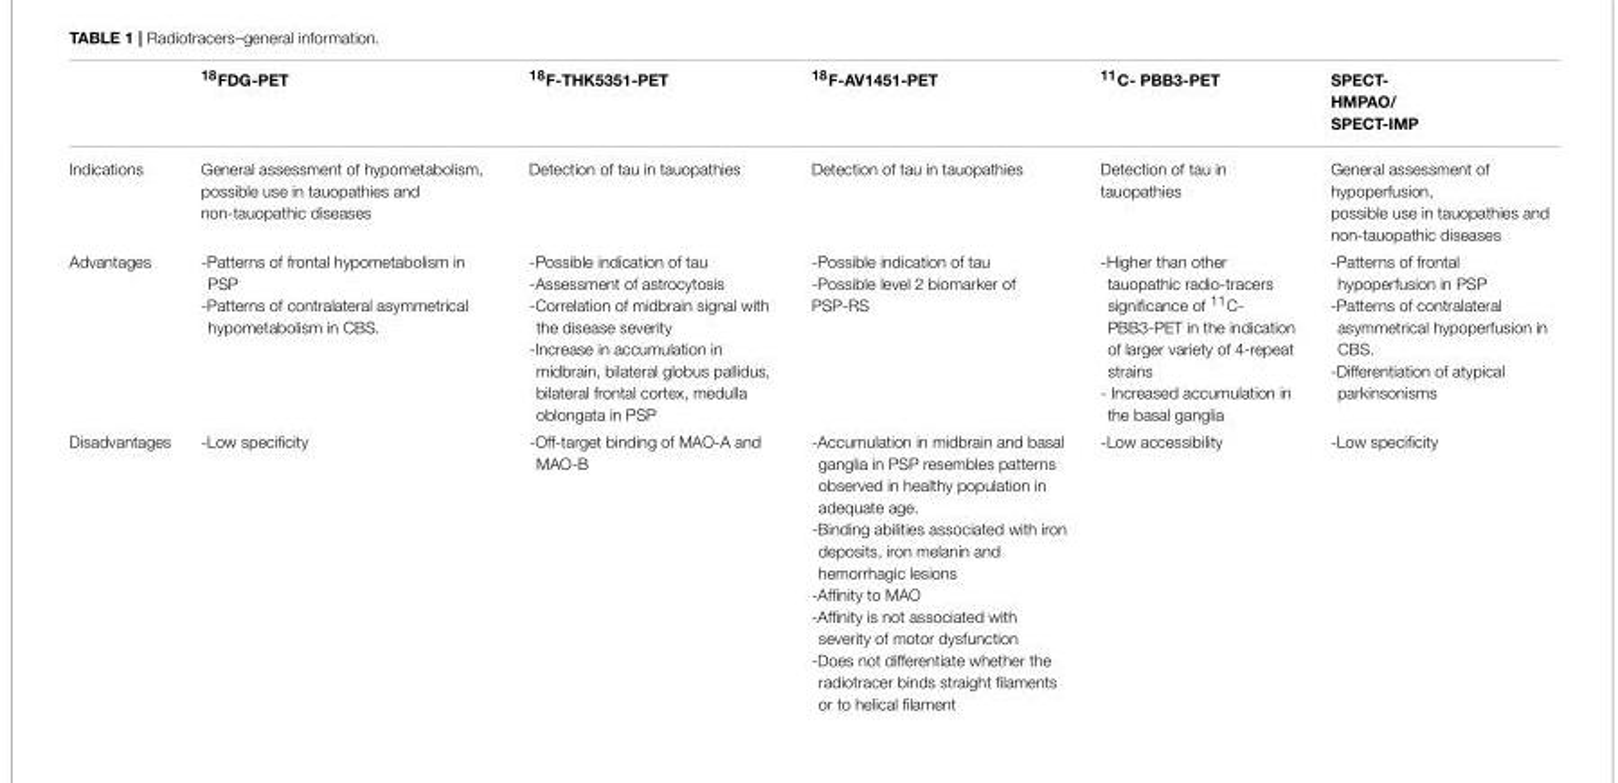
<table><thead><tr><td></td><td>18FDG-PET</td><td>18F-THK5351-PET</td><td>18F-AV1451-PET</td><td>11C- PBB3-PET</td><td>SPECT- HMPAO/ SPECT-IMP</td></tr></thead><tbody><tr><td>Indications</td><td>General assessment of hypometabolism, possible use in tauopathies and non-tauopathic diseases</td><td>Detection of tau in tauopathies</td><td>Detection of tau in tauopathies</td><td>Detection of tau in tauopathies</td><td>General assessment of hypoperfusion, possible use in tauopathies and non-tauopathic diseases</td></tr><tr><td>Advantages</td><td>-Patterns of frontal hypometabolism in PSP -Patterns of contralateral asymmetrical hypometabolism in CBS.</td><td>-Possible indication of tau -Assessment of astrocytosis -Correlation of midbrain signal with the disease severity -Increase in accumulation in midbrain, bilateral globus pallidus, bilateral frontal cortex, medulla oblongata in PSP</td><td>-Possible indication of tau -Possible level 2 biomarker of PSP-RS</td><td>-Higher than other tauopathic radio-tracers significance of <sup>11</sup>C- PBB3-PET in the indication of larger variety of 4-repeat strains - Increased accumulation in the basal ganglia</td><td>-Patterns of frontal hypoperfusion in PSP -Patterns of contralateral asymmetrical hypoperfusion in CBS. -Differentiation of atypical parkinsonisms</td></tr><tr><td>Disadvantages</td><td>-Low specificity</td><td>-Off-target binding of MAO-A and MAO-B</td><td>-Accumulation in midbrain and basal ganglia in PSP resembles patterns observed in healthy population in adequate age. -Binding abilities associated with iron deposits, iron melanin and hemorrhagic lesions -Affinity to MAO -Affinity is not associated with severity of motor dysfunction -Does not differentiate whether the radiotracer binds straight filaments or to helical filament</td><td>-Low accessibility</td><td>-Low specificity</td></tr></tbody></table>